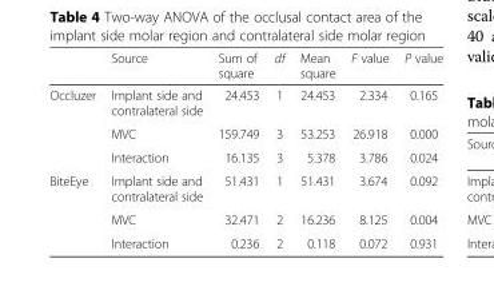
<table><thead><tr><td></td><td>Source</td><td>Sum of square</td><td>df</td><td>Mean square</td><td>F value</td><td>P value</td></tr></thead><tbody><tr><td rowspan="3">Occluzer</td><td>Implant side and contralateral side</td><td>24.453</td><td>1</td><td>24.453</td><td>2.334</td><td>0.165</td></tr><tr><td>MVC</td><td>159.749</td><td>3</td><td>53.253</td><td>26.918</td><td>0.000</td></tr><tr><td>Interaction</td><td>16.135</td><td>3</td><td>5.378</td><td>3.786</td><td>0.024</td></tr><tr><td rowspan="3">BiteEye</td><td>Implant side and contralateral side</td><td>51.431</td><td>1</td><td>51.431</td><td>3.674</td><td>0.092</td></tr><tr><td>MVC</td><td>32.471</td><td>2</td><td>16.236</td><td>8.125</td><td>0.004</td></tr><tr><td>Interaction</td><td>0.236</td><td>2</td><td>0.118</td><td>0.072</td><td>0.931</td></tr></tbody></table>